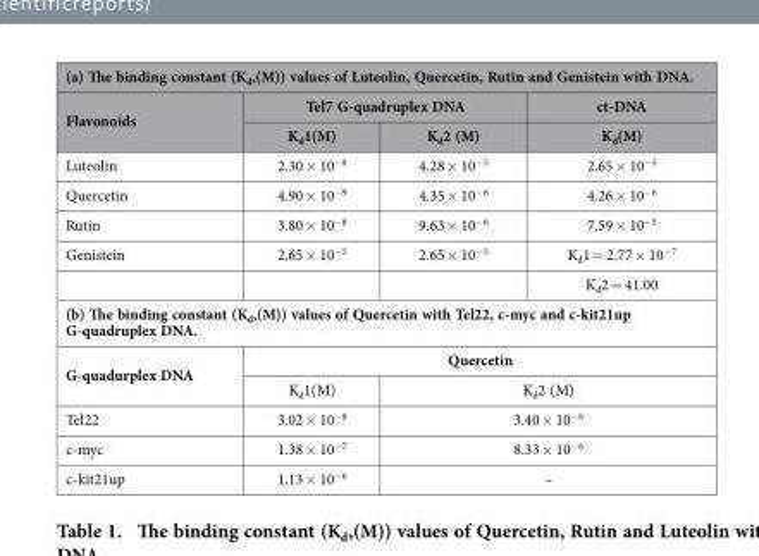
<table><tbody><tr><td colspan="4">(a) The binding constant (K<sub>d</sub>,(M)) values of Luteolin, Quercetin, Rutin and Genistein with DNA.</td></tr><tr><td rowspan="2">Flavonoids</td><td colspan="2">Tel7 G-quadruplex DNA</td><td>ct-DNA</td></tr><tr><td>K<sub>d</sub>1(M)</td><td>K<sub>d</sub>2 (M)</td><td>K<sub>d</sub>(M)</td></tr><tr><td>Luteolin</td><td>2.30 × 10<sup>−8</sup></td><td>4.28 × 10<sup>−5</sup></td><td>2.65 × 10<sup>−5</sup></td></tr><tr><td>Quercetin</td><td>4.90 × 10<sup>−9</sup></td><td>4.35 × 10<sup>−6</sup></td><td>4.26 × 10<sup>−6</sup></td></tr><tr><td>Rutin</td><td>3.80 × 10<sup>−8</sup></td><td>9.63 × 10<sup>−6</sup></td><td>7.59 × 10<sup>−5</sup></td></tr><tr><td rowspan="2">Genistein</td><td>2.65 × 10<sup>−5</sup></td><td>2.65 × 10<sup>−5</sup></td><td>K<sub>d</sub>1 = 2.77 × 10<sup>−7</sup></td></tr><tr><td></td><td></td><td>K<sub>d</sub>2 = 41.00</td></tr><tr><td colspan="4">(b) The binding constant (K<sub>d</sub>,(M)) values of Quercetin with Tel22, c-myc and c-kit21up G-quadruplex DNA.</td></tr><tr><td rowspan="2">G-quadurplex DNA</td><td colspan="3">Quercetin</td></tr><tr><td>K<sub>d</sub>1(M)</td><td colspan="2">K<sub>d</sub>2 (M)</td></tr><tr><td>Tel22</td><td>3.02 × 10<sup>−8</sup></td><td colspan="2">3.40 × 10<sup>−6</sup></td></tr><tr><td>c-myc</td><td>1.38 × 10<sup>−7</sup></td><td colspan="2">8.33 × 10<sup>−6</sup></td></tr><tr><td>c-kit21up</td><td>1.13 × 10<sup>−6</sup></td><td colspan="2">–</td></tr></tbody></table>